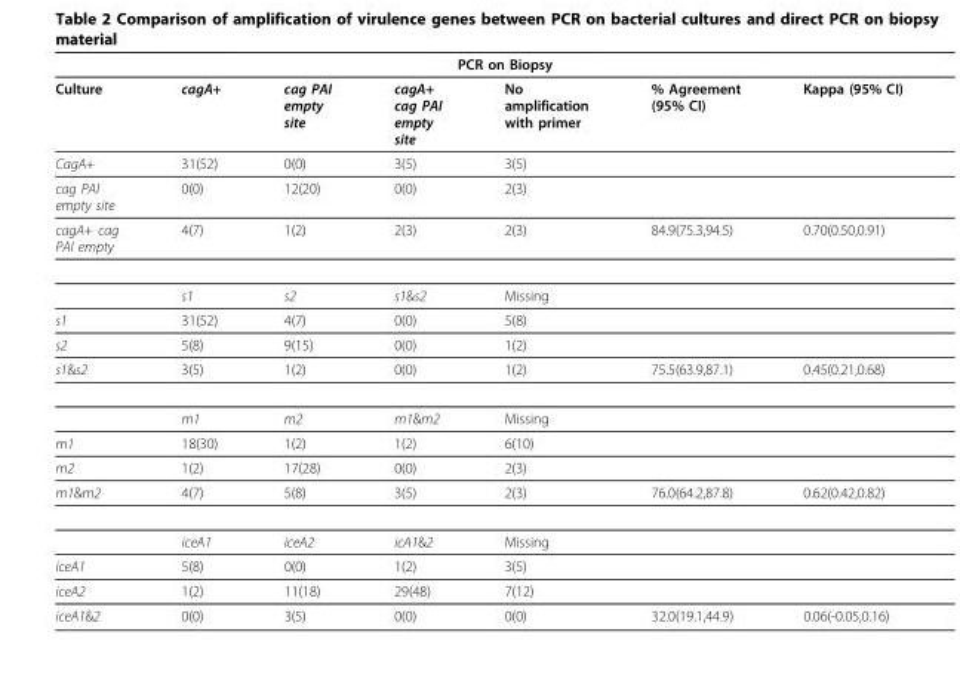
<table><thead><tr><td colspan="7">PCR on Biopsy</td></tr><tr><td>Culture</td><td>cagA+</td><td>cag PAI empty site</td><td>cagA+ cag PAI empty site</td><td>No amplification with primer</td><td>% Agreement (95% CI)</td><td>Kappa (95% CI)</td></tr></thead><tbody><tr><td>CagA+</td><td>31(52)</td><td>0(0)</td><td>3(5)</td><td>3(5)</td><td></td><td></td></tr><tr><td>cag PAI empty site</td><td>0(0)</td><td>12(20)</td><td>0(0)</td><td>2(3)</td><td></td><td></td></tr><tr><td rowspan="2">cagA+ cag PAI empty</td><td>4(7)</td><td>1(2)</td><td>2(3)</td><td>2(3)</td><td>84.9(75.3,94.5)</td><td>0.70(0.50,0.91)</td></tr><tr><td>s1</td><td>s2</td><td>s1&amp;s2</td><td>Missing</td><td></td><td></td></tr><tr><td>s1</td><td>31(52)</td><td>4(7)</td><td>0(0)</td><td>5(8)</td><td></td><td></td></tr><tr><td>s2</td><td>5(8)</td><td>9(15)</td><td>0(0)</td><td>1(2)</td><td></td><td></td></tr><tr><td rowspan="2">s1&amp;s2</td><td>3(5)</td><td>1(2)</td><td>0(0)</td><td>1(2)</td><td>75.5(63.9,87.1)</td><td>0.45(0.21,0.68)</td></tr><tr><td>m1</td><td>m2</td><td>m1&amp;m2</td><td>Missing</td><td></td><td></td></tr><tr><td>m1</td><td>18(30)</td><td>1(2)</td><td>1(2)</td><td>6(10)</td><td></td><td></td></tr><tr><td>m2</td><td>1(2)</td><td>17(28)</td><td>0(0)</td><td>2(3)</td><td></td><td></td></tr><tr><td rowspan="2">m1&amp;m2</td><td>4(7)</td><td>5(8)</td><td>3(5)</td><td>2(3)</td><td>76.0(64.2,87.8)</td><td>0.62(0.42,0.82)</td></tr><tr><td>iceA1</td><td>iceA2</td><td>icA1&amp;2</td><td>Missing</td><td></td><td></td></tr><tr><td>iceA1</td><td>5(8)</td><td>0(0)</td><td>1(2)</td><td>3(5)</td><td></td><td></td></tr><tr><td>iceA2</td><td>1(2)</td><td>11(18)</td><td>29(48)</td><td>7(12)</td><td></td><td></td></tr><tr><td>iceA1&amp;2</td><td>0(0)</td><td>3(5)</td><td>0(0)</td><td>0(0)</td><td>32.0(19.1,44.9)</td><td>0.06(-0.05,0.16)</td></tr></tbody></table>